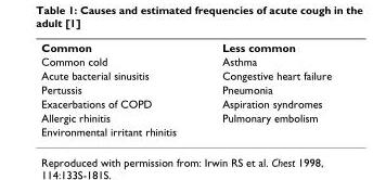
<table><tbody><tr><td>Common</td><td>Less common</td></tr><tr><td>Common cold</td><td>Asthma</td></tr><tr><td>Acute bacterial sinusitis</td><td>Congestive heart failure</td></tr><tr><td>Pertussis</td><td>Pneumonia</td></tr><tr><td>Exacerbations of COPD</td><td>Aspiration syndromes</td></tr><tr><td>Allergic rhinitis</td><td>Pulmonary embolism</td></tr><tr><td>Environmental irritant rhinitis</td><td></td></tr></tbody></table>